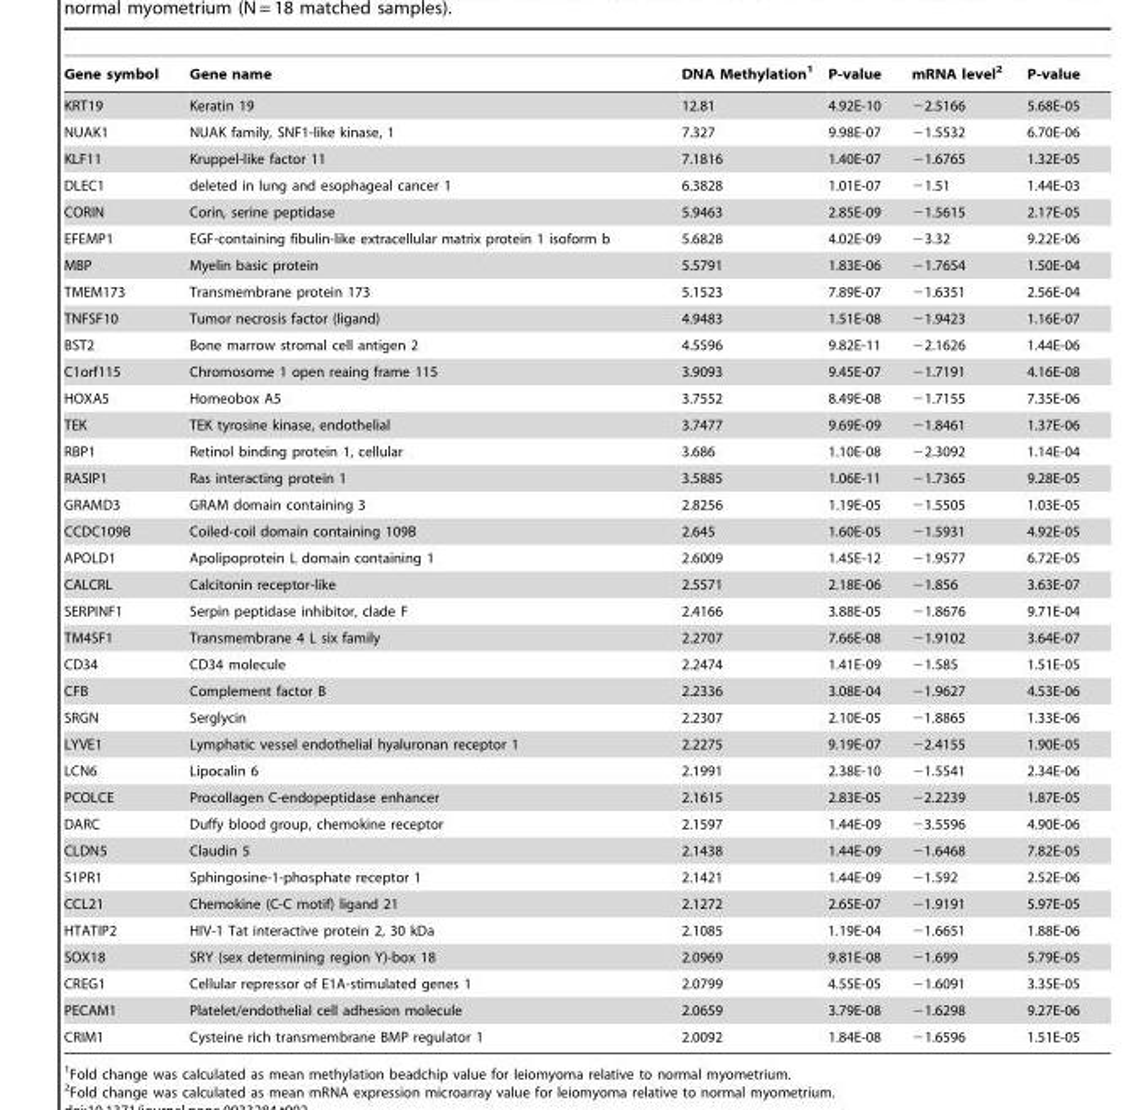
<table><thead><tr><td>Gene symbol</td><td>Gene name</td><td>DNA Methylation<sup>1</sup></td><td>P-value</td><td>mRNA level<sup>2</sup></td><td>P-value</td></tr></thead><tbody><tr><td>KRT19</td><td>Keratin 19</td><td>12.81</td><td>4.92E-10</td><td>−2.5166</td><td>5.68E-05</td></tr><tr><td>NUAK1</td><td>NUAK family, SNF1-like kinase, 1</td><td>7.327</td><td>9.98E-07</td><td>−1.5532</td><td>6.70E-06</td></tr><tr><td>KLF11</td><td>Kruppel-like factor 11</td><td>7.1816</td><td>1.40E-07</td><td>−1.6765</td><td>1.32E-05</td></tr><tr><td>DLEC1</td><td>deleted in lung and esophageal cancer 1</td><td>6.3828</td><td>1.01E-07</td><td>−1.51</td><td>1.44E-03</td></tr><tr><td>CORIN</td><td>Corin, serine peptidase</td><td>5.9463</td><td>2.85E-09</td><td>−1.5615</td><td>2.17E-05</td></tr><tr><td>EFEMP1</td><td>EGF-containing fibulin-like extracellular matrix protein 1 isoform b</td><td>5.6828</td><td>4.02E-09</td><td>−3.32</td><td>9.22E-06</td></tr><tr><td>MBP</td><td>Myelin basic protein</td><td>5.5791</td><td>1.83E-06</td><td>−1.7654</td><td>1.50E-04</td></tr><tr><td>TMEM173</td><td>Transmembrane protein 173</td><td>5.1523</td><td>7.89E-07</td><td>−1.6351</td><td>2.56E-04</td></tr><tr><td>TNFSF10</td><td>Tumor necrosis factor (ligand)</td><td>4.9483</td><td>1.51E-08</td><td>−1.9423</td><td>1.16E-07</td></tr><tr><td>BST2</td><td>Bone marrow stromal cell antigen 2</td><td>4.5596</td><td>9.82E-11</td><td>−2.1626</td><td>1.44E-06</td></tr><tr><td>C1orf115</td><td>Chromosome 1 open reaing frame 115</td><td>3.9093</td><td>9.45E-07</td><td>−1.7191</td><td>4.16E-08</td></tr><tr><td>HOXA5</td><td>Homeobox A5</td><td>3.7552</td><td>8.49E-08</td><td>−1.7155</td><td>7.35E-06</td></tr><tr><td>TEK</td><td>TEK tyrosine kinase, endothelial</td><td>3.7477</td><td>9.69E-09</td><td>−1.8461</td><td>1.37E-06</td></tr><tr><td>RBP1</td><td>Retinol binding protein 1, cellular</td><td>3.686</td><td>1.10E-08</td><td>−2.3092</td><td>1.14E-04</td></tr><tr><td>RASIP1</td><td>Ras interacting protein 1</td><td>3.5885</td><td>1.06E-11</td><td>−1.7365</td><td>9.28E-05</td></tr><tr><td>GRAMD3</td><td>GRAM domain containing 3</td><td>2.8256</td><td>1.19E-05</td><td>−1.5505</td><td>1.03E-05</td></tr><tr><td>CCDC109B</td><td>Coiled-coil domain containing 109B</td><td>2.645</td><td>1.60E-05</td><td>−1.5931</td><td>4.92E-05</td></tr><tr><td>APOLD1</td><td>Apolipoprotein L domain containing 1</td><td>2.6009</td><td>1.45E-12</td><td>−1.9577</td><td>6.72E-05</td></tr><tr><td>CALCRL</td><td>Calcitonin receptor-like</td><td>2.5571</td><td>2.18E-06</td><td>−1.856</td><td>3.63E-07</td></tr><tr><td>SERPINF1</td><td>Serpin peptidase inhibitor, clade F</td><td>2.4166</td><td>3.88E-05</td><td>−1.8676</td><td>9.71E-04</td></tr><tr><td>TM4SF1</td><td>Transmembrane 4 L six family</td><td>2.2707</td><td>7.66E-08</td><td>−1.9102</td><td>3.64E-07</td></tr><tr><td>CD34</td><td>CD34 molecule</td><td>2.2474</td><td>1.41E-09</td><td>−1.585</td><td>1.51E-05</td></tr><tr><td>CFB</td><td>Complement factor B</td><td>2.2336</td><td>3.08E-04</td><td>−1.9627</td><td>4.53E-06</td></tr><tr><td>SRGN</td><td>Serglycin</td><td>2.2307</td><td>2.10E-05</td><td>−1.8865</td><td>1.33E-06</td></tr><tr><td>LYVE1</td><td>Lymphatic vessel endothelial hyaluronan receptor 1</td><td>2.2275</td><td>9.19E-07</td><td>−2.4155</td><td>1.90E-05</td></tr><tr><td>LCN6</td><td>Lipocalin 6</td><td>2.1991</td><td>2.38E-10</td><td>−1.5541</td><td>2.34E-06</td></tr><tr><td>PCOLCE</td><td>Procollagen C-endopeptidase enhancer</td><td>2.1615</td><td>2.83E-05</td><td>−2.2239</td><td>1.87E-05</td></tr><tr><td>DARC</td><td>Duffy blood group, chemokine receptor</td><td>2.1597</td><td>1.44E-09</td><td>−3.5596</td><td>4.90E-06</td></tr><tr><td>CLDN5</td><td>Claudin 5</td><td>2.1438</td><td>1.44E-09</td><td>−1.6468</td><td>7.82E-05</td></tr><tr><td>S1PR1</td><td>Sphingosine-1-phosphate receptor 1</td><td>2.1421</td><td>1.44E-09</td><td>−1.592</td><td>2.52E-06</td></tr><tr><td>CCL21</td><td>Chemokine (C-C motif) ligand 21</td><td>2.1272</td><td>2.65E-07</td><td>−1.9191</td><td>5.97E-05</td></tr><tr><td>HTATIP2</td><td>HIV-1 Tat interactive protein 2, 30 kDa</td><td>2.1085</td><td>1.19E-04</td><td>−1.6651</td><td>1.88E-06</td></tr><tr><td>SOX18</td><td>SRY (sex determining region Y)-box 18</td><td>2.0969</td><td>9.81E-08</td><td>−1.699</td><td>5.79E-05</td></tr><tr><td>CREG1</td><td>Cellular repressor of E1A-stimulated genes 1</td><td>2.0799</td><td>4.55E-05</td><td>−1.6091</td><td>3.35E-05</td></tr><tr><td>PECAM1</td><td>Platelet/endothelial cell adhesion molecule</td><td>2.0659</td><td>3.79E-08</td><td>−1.6298</td><td>9.27E-06</td></tr><tr><td>CRIM1</td><td>Cysteine rich transmembrane BMP regulator 1</td><td>2.0092</td><td>1.84E-08</td><td>−1.6596</td><td>1.51E-05</td></tr></tbody></table>